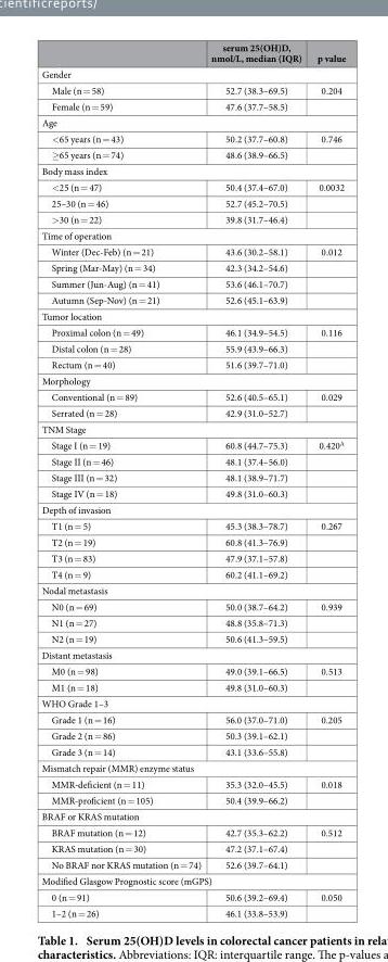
<table><thead><tr><td></td><td>serum 25(OH)D, nmol/L, median (IQR)</td><td>p value</td></tr></thead><tbody><tr><td colspan="3">Gender</td></tr><tr><td>Male (n = 58)</td><td>52.7 (38.3–69.5)</td><td>0.204</td></tr><tr><td>Female (n = 59)</td><td>47.6 (37.7–58.5)</td><td></td></tr><tr><td colspan="3">Age</td></tr><tr><td>&lt; 65 years (n = 43)</td><td>50.2 (37.7–60.8)</td><td>0.746</td></tr><tr><td>≥ 65 years (n = 74)</td><td>48.6 (38.9–66.5)</td><td></td></tr><tr><td colspan="3">Body mass index</td></tr><tr><td>&lt; 25 (n = 47)</td><td>50.4 (37.4–67.0)</td><td>0.0032</td></tr><tr><td>25–30 (n = 46)</td><td>52.7 (45.2–70.5)</td><td></td></tr><tr><td>&gt; 30 (n = 22)</td><td>39.8 (31.7–46.4)</td><td></td></tr><tr><td colspan="3">Time of operation</td></tr><tr><td>Winter (Dec-Feb) (n = 21)</td><td>43.6 (30.2–58.1)</td><td>0.012</td></tr><tr><td>Spring (Mar-May) (n = 34)</td><td>42.3 (34.2–54.6)</td><td></td></tr><tr><td>Summer (Jun-Aug) (n = 41)</td><td>53.6 (46.1–70.7)</td><td></td></tr><tr><td>Autumn (Sep-Nov) (n = 21)</td><td>52.6 (45.1–63.9)</td><td></td></tr><tr><td colspan="3">Tumor location</td></tr><tr><td>Proximal colon (n = 49)</td><td>46.1 (34.9–54.5)</td><td>0.116</td></tr><tr><td>Distal colon (n = 28)</td><td>55.9 (43.9–66.3)</td><td></td></tr><tr><td>Rectum (n = 40)</td><td>51.6 (39.7–71.0)</td><td></td></tr><tr><td colspan="3">Morphology</td></tr><tr><td>Conventional (n = 89)</td><td>52.6 (40.5–65.1)</td><td>0.029</td></tr><tr><td>Serrated (n = 28)</td><td>42.9 (31.0–52.7)</td><td></td></tr><tr><td colspan="3">TNM Stage</td></tr><tr><td>Stage I (n = 19)</td><td>60.8 (44.7–75.3)</td><td>0.420<sup>A</sup></td></tr><tr><td>Stage II (n = 46)</td><td>48.1 (37.4–56.0)</td><td></td></tr><tr><td>Stage III (n = 32)</td><td>48.1 (38.9–71.7)</td><td></td></tr><tr><td>Stage IV (n = 18)</td><td>49.8 (31.0–60.3)</td><td></td></tr><tr><td colspan="3">Depth of invasion</td></tr><tr><td>T1 (n = 5)</td><td>45.3 (38.3–78.7)</td><td>0.267</td></tr><tr><td>T2 (n = 19)</td><td>60.8 (41.3–76.9)</td><td></td></tr><tr><td>T3 (n = 83)</td><td>47.9 (37.1–57.8)</td><td></td></tr><tr><td>T4 (n = 9)</td><td>60.2 (41.1–69.2)</td><td></td></tr><tr><td colspan="3">Nodal metastasis</td></tr><tr><td>N0 (n = 69)</td><td>50.0 (38.7–64.2)</td><td>0.939</td></tr><tr><td>N1 (n = 27)</td><td>48.8 (35.8–71.3)</td><td></td></tr><tr><td>N2 (n = 19)</td><td>50.6 (41.3–59.5)</td><td></td></tr><tr><td colspan="3">Distant metastasis</td></tr><tr><td>M0 (n = 98)</td><td>49.0 (39.1–66.5)</td><td>0.513</td></tr><tr><td>M1 (n = 18)</td><td>49.8 (31.0–60.3)</td><td></td></tr><tr><td colspan="3">WHO Grade 1–3</td></tr><tr><td>Grade 1 (n = 16)</td><td>56.0 (37.0–71.0)</td><td>0.205</td></tr><tr><td>Grade 2 (n = 86)</td><td>50.3 (39.1–62.1)</td><td></td></tr><tr><td>Grade 3 (n = 14)</td><td>43.1 (33.6–55.8)</td><td></td></tr><tr><td colspan="3">Mismatch repair (MMR) enzyme status</td></tr><tr><td>MMR-deficient (n = 11)</td><td>35.3 (32.0–45.5)</td><td>0.018</td></tr><tr><td>MMR-proficient (n = 105)</td><td>50.4 (39.9–66.2)</td><td></td></tr><tr><td colspan="3">BRAF or KRAS mutation</td></tr><tr><td>BRAF mutation (n = 12)</td><td>42.7 (35.3–62.2)</td><td>0.512</td></tr><tr><td>KRAS mutation (n = 30)</td><td>47.2 (37.1–67.4)</td><td></td></tr><tr><td>No BRAF nor KRAS mutation (n = 74)</td><td>52.6 (39.7–64.1)</td><td></td></tr><tr><td colspan="3">Modified Glasgow Prognostic score (mGPS)</td></tr><tr><td>0 (n = 91)</td><td>50.6 (39.2–69.4)</td><td>0.050</td></tr><tr><td>1–2 (n = 26)</td><td>46.1 (33.8–53.9)</td><td></td></tr></tbody></table>